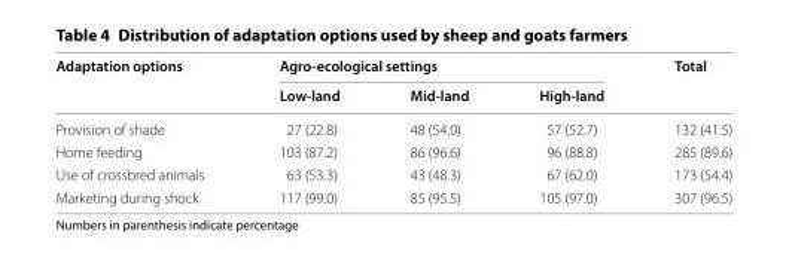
<table><thead><tr><td rowspan="2">Adaptation options</td><td colspan="3">Agro-ecological settings</td><td rowspan="2">Total</td></tr><tr><td>Low-land</td><td>Mid-land</td><td>High-land</td></tr></thead><tbody><tr><td>Provision of shade</td><td>27 (22.8)</td><td>48 (54.0)</td><td>57 (52.7)</td><td>132 (41.5)</td></tr><tr><td>Home feeding</td><td>103 (87.2)</td><td>86 (96.6)</td><td>96 (88.8)</td><td>285 (89.6)</td></tr><tr><td>Use of crossbred animals</td><td>63 (53.3)</td><td>43 (48.3)</td><td>67 (62.0)</td><td>173 (54.4)</td></tr><tr><td>Marketing during shock</td><td>117 (99.0)</td><td>85 (95.5)</td><td>105 (97.0)</td><td>307 (96.5)</td></tr></tbody></table>